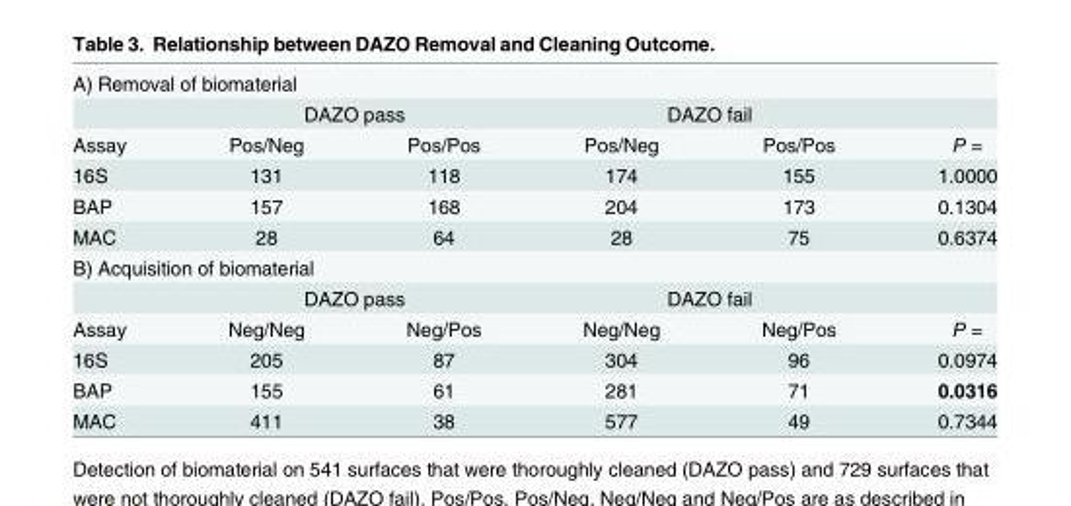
<table><tbody><tr><td colspan="6">A) Removal of biomaterial</td></tr><tr><td></td><td colspan="2">DAZO pass</td><td colspan="2">DAZO fail</td><td></td></tr><tr><td>Assay</td><td>Pos/Neg</td><td>Pos/Pos</td><td>Pos/Neg</td><td>Pos/Pos</td><td>P =</td></tr><tr><td>16S</td><td>131</td><td>118</td><td>174</td><td>155</td><td>1.0000</td></tr><tr><td>BAP</td><td>157</td><td>168</td><td>204</td><td>173</td><td>0.1304</td></tr><tr><td>MAC</td><td>28</td><td>64</td><td>28</td><td>75</td><td>0.6374</td></tr><tr><td colspan="6">B) Acquisition of biomaterial</td></tr><tr><td></td><td colspan="2">DAZO pass</td><td colspan="2">DAZO fail</td><td></td></tr><tr><td>Assay</td><td>Neg/Neg</td><td>Neg/Pos</td><td>Neg/Neg</td><td>Neg/Pos</td><td>P =</td></tr><tr><td>16S</td><td>205</td><td>87</td><td>304</td><td>96</td><td>0.0974</td></tr><tr><td>BAP</td><td>155</td><td>61</td><td>281</td><td>71</td><td>0.0316</td></tr><tr><td>MAC</td><td>411</td><td>38</td><td>577</td><td>49</td><td>0.7344</td></tr></tbody></table>